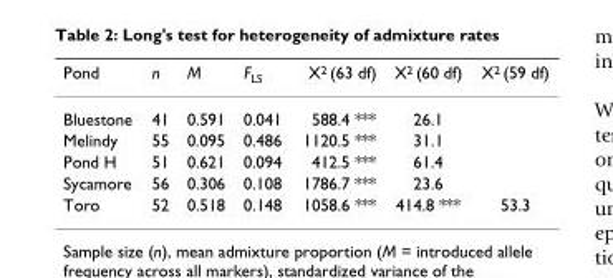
<table><thead><tr><td>Pond</td><td>n</td><td>M</td><td>F<sub>LS</sub></td><td>X<sup>2</sup> (63 df)</td><td>X<sup>2</sup> (60 df)</td><td>X<sup>2</sup> (59 df)</td></tr></thead><tbody><tr><td>Bluestone</td><td>41</td><td>0.591</td><td>0.041</td><td>588.4 ***</td><td>26.1</td><td></td></tr><tr><td>Melindy</td><td>55</td><td>0.095</td><td>0.486</td><td>1120.5 ***</td><td>31.1</td><td></td></tr><tr><td>Pond H</td><td>51</td><td>0.621</td><td>0.094</td><td>412.5 ***</td><td>61.4</td><td></td></tr><tr><td>Sycamore</td><td>56</td><td>0.306</td><td>0.108</td><td>1786.7 ***</td><td>23.6</td><td></td></tr><tr><td>Toro</td><td>52</td><td>0.518</td><td>0.148</td><td>1058.6 ***</td><td>414.8 ***</td><td>53.3</td></tr></tbody></table>